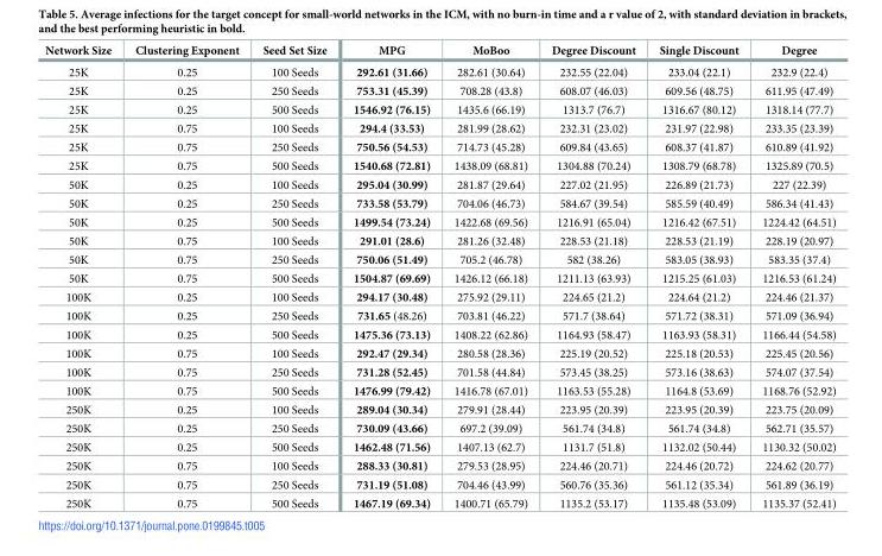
<table><thead><tr><td>Network Size</td><td>Clustering Exponent</td><td>Seed Set Size</td><td>MPG</td><td>MoBoo</td><td>Degree Discount</td><td>Single Discount</td><td>Degree</td></tr></thead><tbody><tr><td>25K</td><td>0.25</td><td>100 Seeds</td><td>292.61 (31.66)</td><td>282.61 (30.64)</td><td>232.55 (22.04)</td><td>233.04 (22.1)</td><td>232.9 (22.4)</td></tr><tr><td>25K</td><td>0.25</td><td>250 Seeds</td><td>753.31 (45.39)</td><td>708.28 (43.8)</td><td>608.07 (46.03)</td><td>609.56 (48.75)</td><td>611.95 (47.49)</td></tr><tr><td>25K</td><td>0.25</td><td>500 Seeds</td><td>1546.92 (76.15)</td><td>1435.6 (66.19)</td><td>1313.7 (76.7)</td><td>1316.67 (80.12)</td><td>1318.14 (77.7)</td></tr><tr><td>25K</td><td>0.75</td><td>100 Seeds</td><td>294.4 (33.53)</td><td>281.99 (28.62)</td><td>232.31 (23.02)</td><td>231.97 (22.98)</td><td>233.35 (23.39)</td></tr><tr><td>25K</td><td>0.75</td><td>250 Seeds</td><td>750.56 (54.53)</td><td>714.73 (45.28)</td><td>609.84 (43.65)</td><td>608.37 (41.87)</td><td>610.89 (41.92)</td></tr><tr><td>25K</td><td>0.75</td><td>500 Seeds</td><td>1540.68 (72.81)</td><td>1438.09 (68.81)</td><td>1304.88 (70.24)</td><td>1308.79 (68.78)</td><td>1325.89 (70.5)</td></tr><tr><td>50K</td><td>0.25</td><td>100 Seeds</td><td>295.04 (30.99)</td><td>281.87 (29.64)</td><td>227.02 (21.95)</td><td>226.89 (21.73)</td><td>227 (22.39)</td></tr><tr><td>50K</td><td>0.25</td><td>250 Seeds</td><td>733.58 (53.79)</td><td>704.06 (46.73)</td><td>584.67 (39.54)</td><td>585.59 (40.49)</td><td>586.34 (41.43)</td></tr><tr><td>50K</td><td>0.25</td><td>500 Seeds</td><td>1499.54 (73.24)</td><td>1422.68 (69.56)</td><td>1216.91 (65.04)</td><td>1216.42 (67.51)</td><td>1224.42 (64.51)</td></tr><tr><td>50K</td><td>0.75</td><td>100 Seeds</td><td>291.01 (28.6)</td><td>281.26 (32.48)</td><td>228.53 (21.18)</td><td>228.53 (21.19)</td><td>228.19 (20.97)</td></tr><tr><td>50K</td><td>0.75</td><td>250 Seeds</td><td>750.06 (51.49)</td><td>705.2 (46.78)</td><td>582 (38.26)</td><td>583.05 (38.93)</td><td>583.35 (37.4)</td></tr><tr><td>50K</td><td>0.75</td><td>500 Seeds</td><td>1504.87 (69.69)</td><td>1426.12 (66.18)</td><td>1211.13 (63.93)</td><td>1215.25 (61.03)</td><td>1216.53 (61.24)</td></tr><tr><td>100K</td><td>0.25</td><td>100 Seeds</td><td>294.17 (30.48)</td><td>275.92 (29.11)</td><td>224.65 (21.2)</td><td>224.64 (21.2)</td><td>224.46 (21.37)</td></tr><tr><td>100K</td><td>0.25</td><td>250 Seeds</td><td>731.65 (48.26)</td><td>703.81 (46.22)</td><td>571.7 (38.64)</td><td>571.72 (38.31)</td><td>571.09 (36.94)</td></tr><tr><td>100K</td><td>0.25</td><td>500 Seeds</td><td>1475.36 (73.13)</td><td>1408.22 (62.86)</td><td>1164.93 (58.47)</td><td>1163.93 (58.31)</td><td>1166.44 (54.58)</td></tr><tr><td>100K</td><td>0.75</td><td>100 Seeds</td><td>292.47 (29.34)</td><td>280.58 (28.36)</td><td>225.19 (20.52)</td><td>225.18 (20.53)</td><td>225.45 (20.56)</td></tr><tr><td>100K</td><td>0.75</td><td>250 Seeds</td><td>731.28 (52.45)</td><td>701.58 (44.84)</td><td>573.45 (38.25)</td><td>573.16 (38.63)</td><td>574.07 (37.54)</td></tr><tr><td>100K</td><td>0.75</td><td>500 Seeds</td><td>1476.99 (79.42)</td><td>1416.78 (67.01)</td><td>1163.53 (55.28)</td><td>1164.8 (53.69)</td><td>1168.76 (52.92)</td></tr><tr><td>250K</td><td>0.25</td><td>100 Seeds</td><td>289.04 (30.34)</td><td>279.91 (28.44)</td><td>223.95 (20.39)</td><td>223.95 (20.39)</td><td>223.75 (20.09)</td></tr><tr><td>250K</td><td>0.25</td><td>250 Seeds</td><td>730.09 (43.66)</td><td>697.2 (39.09)</td><td>561.74 (34.8)</td><td>561.74 (34.8)</td><td>562.71 (35.57)</td></tr><tr><td>250K</td><td>0.25</td><td>500 Seeds</td><td>1462.48 (71.56)</td><td>1407.13 (62.7)</td><td>1131.7 (51.8)</td><td>1132.02 (50.44)</td><td>1130.32 (50.02)</td></tr><tr><td>250K</td><td>0.75</td><td>100 Seeds</td><td>288.33 (30.81)</td><td>279.53 (28.95)</td><td>224.46 (20.71)</td><td>224.46 (20.72)</td><td>224.62 (20.77)</td></tr><tr><td>250K</td><td>0.75</td><td>250 Seeds</td><td>731.19 (51.08)</td><td>704.46 (43.99)</td><td>560.76 (35.36)</td><td>561.12 (35.34)</td><td>561.89 (36.19)</td></tr><tr><td>250K</td><td>0.75</td><td>500 Seeds</td><td>1467.19 (69.34)</td><td>1400.71 (65.79)</td><td>1135.2 (53.17)</td><td>1135.48 (53.09)</td><td>1135.37 (52.41)</td></tr></tbody></table>